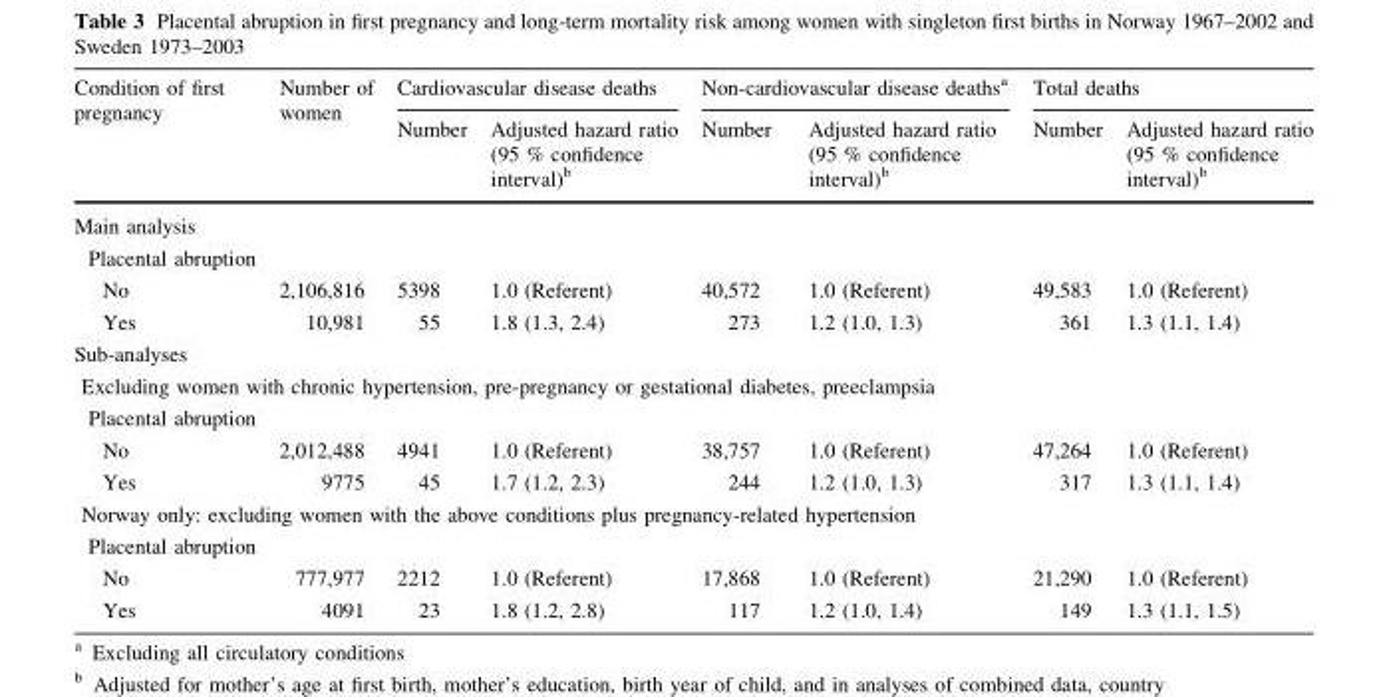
<table><thead><tr><td rowspan="2">Condition of first pregnancy</td><td rowspan="2">Number of women</td><td colspan="2">Cardiovascular disease deaths</td><td colspan="2">Non-cardiovascular disease deaths<sup>a</sup></td><td colspan="2">Total deaths</td></tr><tr><td>Number</td><td>Adjusted hazard ratio (95 % confidence interval)<sup>b</sup></td><td>Number</td><td>Adjusted hazard ratio (95 % confidence interval)<sup>b</sup></td><td>Number</td><td>Adjusted hazard ratio (95 % confidence interval)<sup>b</sup></td></tr></thead><tbody><tr><td colspan="8">Main analysis</td></tr><tr><td colspan="8">Placental abruption</td></tr><tr><td>No</td><td>2,106,816</td><td>5398</td><td>1.0 (Referent)</td><td>40,572</td><td>1.0 (Referent)</td><td>49,583</td><td>1.0 (Referent)</td></tr><tr><td>Yes</td><td>10,981</td><td>55</td><td>1.8 (1.3, 2.4)</td><td>273</td><td>1.2 (1.0, 1.3)</td><td>361</td><td>1.3 (1.1, 1.4)</td></tr><tr><td colspan="8">Sub-analyses</td></tr><tr><td colspan="8">Excluding women with chronic hypertension, pre-pregnancy or gestational diabetes, preeclampsia</td></tr><tr><td colspan="8">Placental abruption</td></tr><tr><td>No</td><td>2,012,488</td><td>4941</td><td>1.0 (Referent)</td><td>38,757</td><td>1.0 (Referent)</td><td>47,264</td><td>1.0 (Referent)</td></tr><tr><td>Yes</td><td>9775</td><td>45</td><td>1.7 (1.2, 2.3)</td><td>244</td><td>1.2 (1.0, 1.3)</td><td>317</td><td>1.3 (1.1, 1.4)</td></tr><tr><td colspan="8">Norway only: excluding women with the above conditions plus pregnancy-related hypertension</td></tr><tr><td colspan="8">Placental abruption</td></tr><tr><td>No</td><td>777,977</td><td>2212</td><td>1.0 (Referent)</td><td>17,868</td><td>1.0 (Referent)</td><td>21,290</td><td>1.0 (Referent)</td></tr><tr><td>Yes</td><td>4091</td><td>23</td><td>1.8 (1.2, 2.8)</td><td>117</td><td>1.2 (1.0, 1.4)</td><td>149</td><td>1.3 (1.1, 1.5)</td></tr></tbody></table>